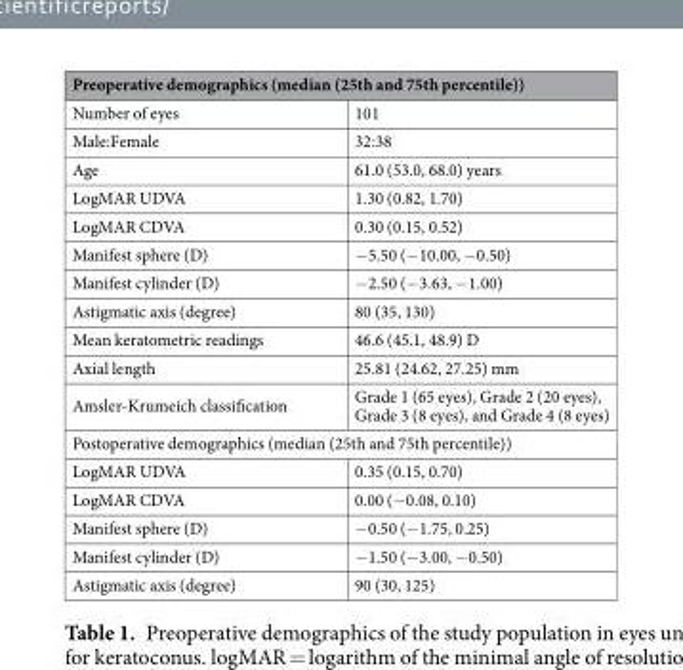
<table><thead><tr><td colspan="2">Preoperative demographics (median (25th and 75th percentile))</td></tr><tr><td>Number of eyes</td><td>101</td></tr></thead><tbody><tr><td>Male:Female</td><td>32:38</td></tr><tr><td>Age</td><td>61.0 (53.0, 68.0) years</td></tr><tr><td>LogMAR UDVA</td><td>1.30 (0.82, 1.70)</td></tr><tr><td>LogMAR CDVA</td><td>0.30 (0.15, 0.52)</td></tr><tr><td>Manifest sphere (D)</td><td>−5.50 (−10.00, −0.50)</td></tr><tr><td>Manifest cylinder (D)</td><td>−2.50 (−3.63, −1.00)</td></tr><tr><td>Astigmatic axis (degree)</td><td>80 (35, 130)</td></tr><tr><td>Mean keratometric readings</td><td>46.6 (45.1, 48.9) D</td></tr><tr><td>Axial length</td><td>25.81 (24.62, 27.25) mm</td></tr><tr><td>Amsler-Krumeich classification</td><td>Grade 1 (65 eyes), Grade 2 (20 eyes), Grade 3 (8 eyes), and Grade 4 (8 eyes)</td></tr><tr><td colspan="2">Postoperative demographics (median (25th and 75th percentile))</td></tr><tr><td>LogMAR UDVA</td><td>0.35 (0.15, 0.70)</td></tr><tr><td>LogMAR CDVA</td><td>0.00 (−0.08, 0.10)</td></tr><tr><td>Manifest sphere (D)</td><td>−0.50 (−1.75, 0.25)</td></tr><tr><td>Manifest cylinder (D)</td><td>−1.50 (−3.00, −0.50)</td></tr><tr><td>Astigmatic axis (degree)</td><td>90 (30, 125)</td></tr></tbody></table>